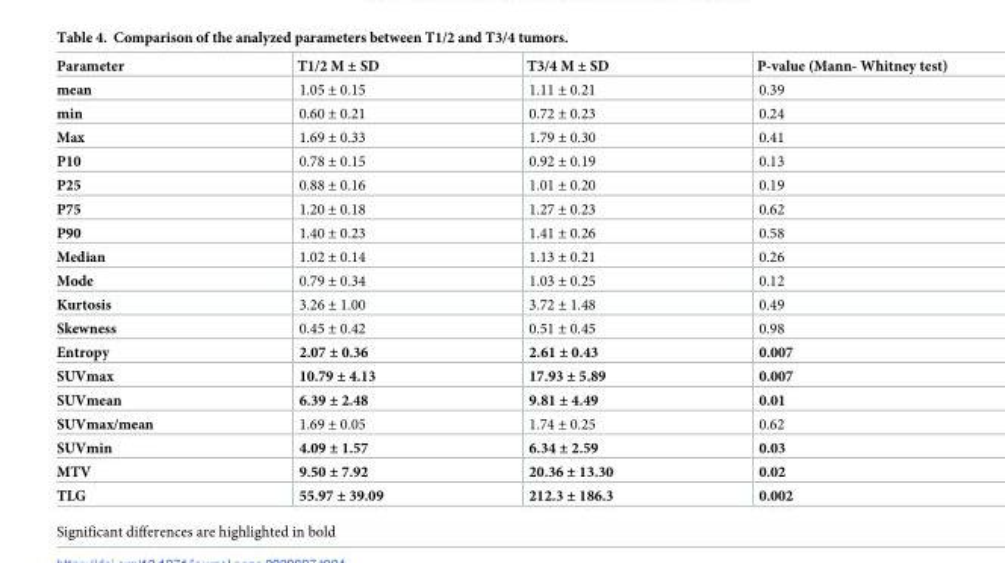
<table><thead><tr><td>Parameter</td><td>T1/2 M ± SD</td><td>T3/4 M ± SD</td><td>P-value (Mann- Whitney test)</td></tr></thead><tbody><tr><td>mean</td><td>1.05 ± 0.15</td><td>1.11 ± 0.21</td><td>0.39</td></tr><tr><td>min</td><td>0.60 ± 0.21</td><td>0.72 ± 0.23</td><td>0.24</td></tr><tr><td>Max</td><td>1.69 ± 0.33</td><td>1.79 ± 0.30</td><td>0.41</td></tr><tr><td>P10</td><td>0.78 ± 0.15</td><td>0.92 ± 0.19</td><td>0.13</td></tr><tr><td>P25</td><td>0.88 ± 0.16</td><td>1.01 ± 0.20</td><td>0.19</td></tr><tr><td>P75</td><td>1.20 ± 0.18</td><td>1.27 ± 0.23</td><td>0.62</td></tr><tr><td>P90</td><td>1.40 ± 0.23</td><td>1.41 ± 0.26</td><td>0.58</td></tr><tr><td>Median</td><td>1.02 ± 0.14</td><td>1.13 ± 0.21</td><td>0.26</td></tr><tr><td>Mode</td><td>0.79 ± 0.34</td><td>1.03 ± 0.25</td><td>0.12</td></tr><tr><td>Kurtosis</td><td>3.26 ± 1.00</td><td>3.72 ± 1.48</td><td>0.49</td></tr><tr><td>Skewness</td><td>0.45 ± 0.42</td><td>0.51 ± 0.45</td><td>0.98</td></tr><tr><td>Entropy</td><td>2.07 ± 0.36</td><td>2.61 ± 0.43</td><td>0.007</td></tr><tr><td>SUVmax</td><td>10.79 ± 4.13</td><td>17.93 ± 5.89</td><td>0.007</td></tr><tr><td>SUVmean</td><td>6.39 ± 2.48</td><td>9.81 ± 4.49</td><td>0.01</td></tr><tr><td>SUVmax/mean</td><td>1.69 ± 0.05</td><td>1.74 ± 0.25</td><td>0.62</td></tr><tr><td>SUVmin</td><td>4.09 ± 1.57</td><td>6.34 ± 2.59</td><td>0.03</td></tr><tr><td>MTV</td><td>9.50 ± 7.92</td><td>20.36 ± 13.30</td><td>0.02</td></tr><tr><td>TLG</td><td>55.97 ± 39.09</td><td>212.3 ± 186.3</td><td>0.002</td></tr></tbody></table>